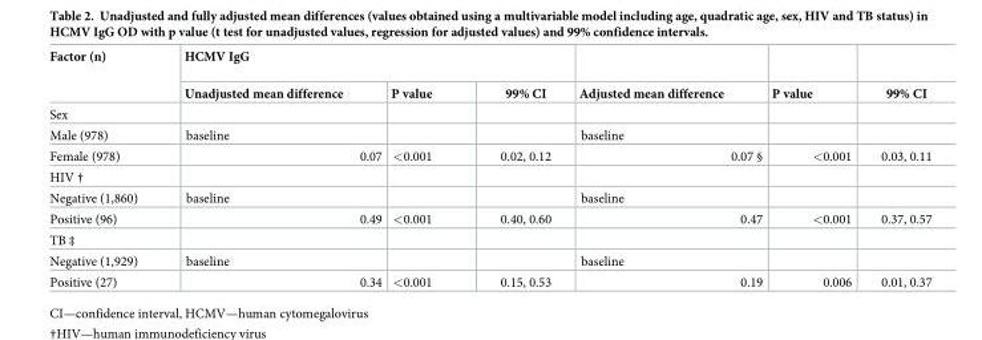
<table><thead><tr><td rowspan="2">Factor (n)</td><td colspan="3">HCMV IgG</td><td rowspan="2">Adjusted mean difference</td><td rowspan="2">P value</td><td rowspan="2">99% CI</td></tr><tr><td>Unadjusted mean difference</td><td>P value</td><td>99% CI</td></tr></thead><tbody><tr><td colspan="7">Sex</td></tr><tr><td>Male (978)</td><td>baseline</td><td></td><td></td><td>baseline</td><td></td><td></td></tr><tr><td>Female (978)</td><td>0.07</td><td>&lt;0.001</td><td>0.02, 0.12</td><td>0.07 §</td><td>&lt;0.001</td><td>0.03, 0.11</td></tr><tr><td colspan="7">HIV †</td></tr><tr><td>Negative (1,860)</td><td>baseline</td><td></td><td></td><td>baseline</td><td></td><td></td></tr><tr><td>Positive (96)</td><td>0.49</td><td>&lt;0.001</td><td>0.40, 0.60</td><td>0.47</td><td>&lt;0.001</td><td>0.37, 0.57</td></tr><tr><td colspan="7">TB ‡</td></tr><tr><td>Negative (1,929)</td><td>baseline</td><td></td><td></td><td>baseline</td><td></td><td></td></tr><tr><td>Positive (27)</td><td>0.34</td><td>&lt;0.001</td><td>0.15, 0.53</td><td>0.19</td><td>0.006</td><td>0.01, 0.37</td></tr></tbody></table>